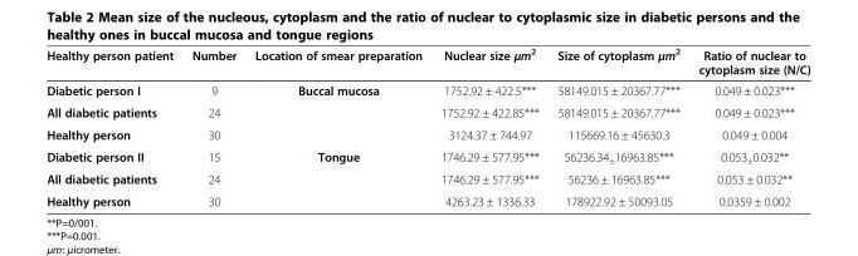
<table><thead><tr><td>Healthy person patient</td><td>Number</td><td>Location of smear preparation</td><td>Nuclear size μm<sup>2</sup></td><td>Size of cytoplasm μm<sup>2</sup></td><td>Ratio of nuclear to cytoplasm size (N/C)</td></tr></thead><tbody><tr><td>Diabetic person I</td><td>9</td><td rowspan="3">Buccal mucosa</td><td>1752.92 ± 422.5***</td><td>58149.015 ± 20367.77***</td><td>0.049 ± 0.023***</td></tr><tr><td>All diabetic patients</td><td>24</td><td>1752.92 ± 422.85***</td><td>58149.015 ± 20367.77***</td><td>0.049 ± 0.023***</td></tr><tr><td>Healthy person</td><td>30</td><td>3124.37 ± 744.97</td><td>115669.16 ± 45630.3</td><td>0.049 ± 0.004</td></tr><tr><td>Diabetic person II</td><td>15</td><td rowspan="3">Tongue</td><td>1746.29 ± 577.95***</td><td>56236.34<sub>±</sub>16963.85***</td><td>0.053<sub>±</sub>0.032**</td></tr><tr><td>All diabetic patients</td><td>24</td><td>1746.29 ± 577.95***</td><td>56236 ± 16963.85***</td><td>0.053 ± 0.032**</td></tr><tr><td>Healthy person</td><td>30</td><td>4263.23 ± 1336.33</td><td>178922.92 ± 50093.05</td><td>0.0359 ± 0.002</td></tr></tbody></table>